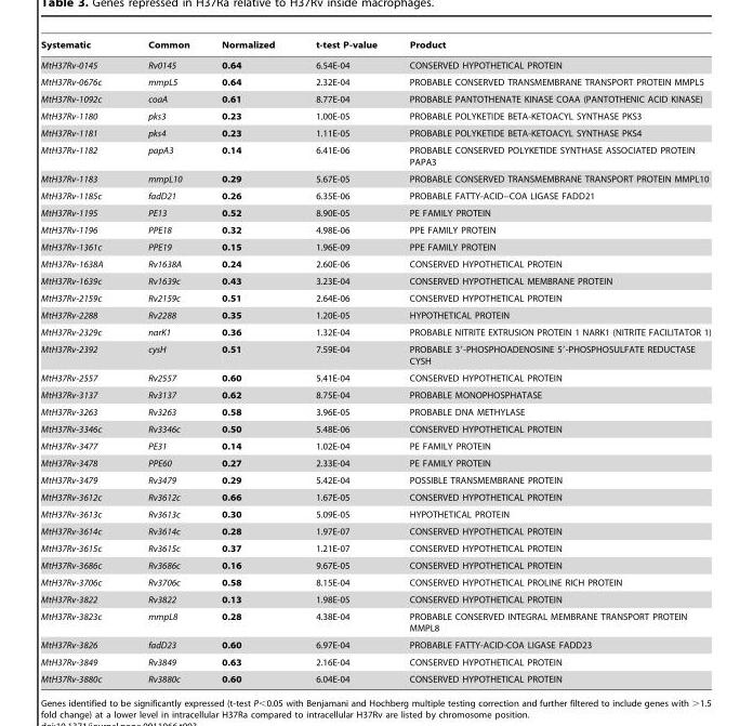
<table><thead><tr><td>Systematic</td><td>Common</td><td>Normalized</td><td>t-test P-value</td><td>Product</td></tr></thead><tbody><tr><td>MtH37Rv-0145</td><td>Rv0145</td><td>0.64</td><td>6.54E-04</td><td>CONSERVED HYPOTHETICAL PROTEIN</td></tr><tr><td>MtH37Rv-0676c</td><td>mmpL5</td><td>0.64</td><td>2.32E-04</td><td>PROBABLE CONSERVED TRANSMEMBRANE TRANSPORT PROTEIN MMPL5</td></tr><tr><td>MtH37Rv-1092c</td><td>coaA</td><td>0.61</td><td>8.77E-04</td><td>PROBABLE PANTOTHENATE KINASE COAA (PANTOTHENIC ACID KINASE)</td></tr><tr><td>MtH37Rv-1180</td><td>pks3</td><td>0.23</td><td>1.00E-05</td><td>PROBABLE POLYKETIDE BETA-KETOACYL SYNTHASE PKS3</td></tr><tr><td>MtH37Rv-1181</td><td>pks4</td><td>0.23</td><td>1.11E-05</td><td>PROBABLE POLYKETIDE BETA-KETOACYL SYNTHASE PKS4</td></tr><tr><td>MtH37Rv-1182</td><td>papA3</td><td>0.14</td><td>6.41E-06</td><td>PROBABLE CONSERVED POLYKETIDE SYNTHASE ASSOCIATED PROTEIN PAPA3</td></tr><tr><td>MtH37Rv-1183</td><td>mmpL10</td><td>0.29</td><td>5.67E-05</td><td>PROBABLE CONSERVED TRANSMEMBRANE TRANSPORT PROTEIN MMPL10</td></tr><tr><td>MtH37Rv-1185c</td><td>fadD21</td><td>0.26</td><td>6.35E-06</td><td>PROBABLE FATTY-ACID--COA LIGASE FADD21</td></tr><tr><td>MtH37Rv-1195</td><td>PE13</td><td>0.52</td><td>8.90E-05</td><td>PE FAMILY PROTEIN</td></tr><tr><td>MtH37Rv-1196</td><td>PPE18</td><td>0.32</td><td>4.98E-06</td><td>PPE FAMILY PROTEIN</td></tr><tr><td>MtH37Rv-1361c</td><td>PPE19</td><td>0.15</td><td>1.96E-09</td><td>PPE FAMILY PROTEIN</td></tr><tr><td>MtH37Rv-1638A</td><td>Rv1638A</td><td>0.24</td><td>2.60E-06</td><td>CONSERVED HYPOTHETICAL PROTEIN</td></tr><tr><td>MtH37Rv-1639c</td><td>Rv1639c</td><td>0.43</td><td>3.23E-04</td><td>CONSERVED HYPOTHETICAL MEMBRANE PROTEIN</td></tr><tr><td>MtH37Rv-2159c</td><td>Rv2159c</td><td>0.51</td><td>2.64E-06</td><td>CONSERVED HYPOTHETICAL PROTEIN</td></tr><tr><td>MtH37Rv-2288</td><td>Rv2288</td><td>0.35</td><td>1.20E-05</td><td>HYPOTHETICAL PROTEIN</td></tr><tr><td>MtH37Rv-2329c</td><td>narK1</td><td>0.36</td><td>1.32E-04</td><td>PROBABLE NITRITE EXTRUSION PROTEIN 1 NARK1 (NITRITE FACILITATOR 1)</td></tr><tr><td>MtH37Rv-2392</td><td>cysH</td><td>0.51</td><td>7.59E-04</td><td>PROBABLE 3′-PHOSPHOADENOSINE 5′-PHOSPHOSULFATE REDUCTASE CYSH</td></tr><tr><td>MtH37Rv-2557</td><td>Rv2557</td><td>0.60</td><td>5.41E-04</td><td>CONSERVED HYPOTHETICAL PROTEIN</td></tr><tr><td>MtH37Rv-3137</td><td>Rv3137</td><td>0.62</td><td>8.75E-04</td><td>PROBABLE MONOPHOSPHATASE</td></tr><tr><td>MtH37Rv-3263</td><td>Rv3263</td><td>0.58</td><td>3.96E-05</td><td>PROBABLE DNA METHYLASE</td></tr><tr><td>MtH37Rv-3346c</td><td>Rv3346c</td><td>0.50</td><td>5.48E-06</td><td>CONSERVED HYPOTHETICAL PROTEIN</td></tr><tr><td>MtH37Rv-3477</td><td>PE31</td><td>0.14</td><td>1.02E-04</td><td>PE FAMILY PROTEIN</td></tr><tr><td>MtH37Rv-3478</td><td>PPE60</td><td>0.27</td><td>2.33E-04</td><td>PE FAMILY PROTEIN</td></tr><tr><td>MtH37Rv-3479</td><td>Rv3479</td><td>0.29</td><td>5.42E-04</td><td>POSSIBLE TRANSMEMBRANE PROTEIN</td></tr><tr><td>MtH37Rv-3612c</td><td>Rv3612c</td><td>0.66</td><td>1.67E-05</td><td>CONSERVED HYPOTHETICAL PROTEIN</td></tr><tr><td>MtH37Rv-3613c</td><td>Rv3613c</td><td>0.30</td><td>5.09E-05</td><td>HYPOTHETICAL PROTEIN</td></tr><tr><td>MtH37Rv-3614c</td><td>Rv3614c</td><td>0.28</td><td>1.97E-07</td><td>CONSERVED HYPOTHETICAL PROTEIN</td></tr><tr><td>MtH37Rv-3615c</td><td>Rv3615c</td><td>0.37</td><td>1.21E-07</td><td>CONSERVED HYPOTHETICAL PROTEIN</td></tr><tr><td>MtH37Rv-3686c</td><td>Rv3686c</td><td>0.16</td><td>9.67E-05</td><td>CONSERVED HYPOTHETICAL PROTEIN</td></tr><tr><td>MtH37Rv-3706c</td><td>Rv3706c</td><td>0.58</td><td>8.15E-04</td><td>CONSERVED HYPOTHETICAL PROLINE RICH PROTEIN</td></tr><tr><td>MtH37Rv-3822</td><td>Rv3822</td><td>0.13</td><td>1.98E-05</td><td>CONSERVED HYPOTHETICAL PROTEIN</td></tr><tr><td>MtH37Rv-3823c</td><td>mmpL8</td><td>0.28</td><td>4.38E-04</td><td>PROBABLE CONSERVED INTEGRAL MEMBRANE TRANSPORT PROTEIN MMPL8</td></tr><tr><td>MtH37Rv-3826</td><td>fadD23</td><td>0.60</td><td>6.97E-04</td><td>PROBABLE FATTY-ACID-COA LIGASE FADD23</td></tr><tr><td>MtH37Rv-3849</td><td>Rv3849</td><td>0.63</td><td>2.16E-04</td><td>CONSERVED HYPOTHETICAL PROTEIN</td></tr><tr><td>MtH37Rv-3880c</td><td>Rv3880c</td><td>0.60</td><td>6.04E-04</td><td>CONSERVED HYPOTHETICAL PROTEIN</td></tr></tbody></table>